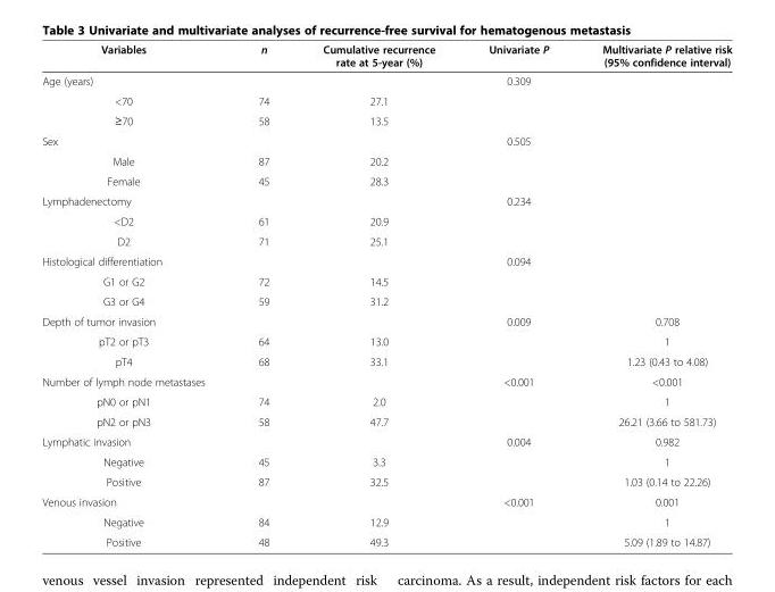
<table><thead><tr><td>Variables</td><td>n</td><td>Cumulative recurrence rate at 5-year (%)</td><td>Univariate P</td><td>Multivariate P relative risk (95% confidence interval)</td></tr></thead><tbody><tr><td>Age (years)</td><td></td><td></td><td>0.309</td><td></td></tr><tr><td>&lt;70</td><td>74</td><td>27.1</td><td></td><td></td></tr><tr><td>≥70</td><td>58</td><td>13.5</td><td></td><td></td></tr><tr><td>Sex</td><td></td><td></td><td>0.505</td><td></td></tr><tr><td>Male</td><td>87</td><td>20.2</td><td></td><td></td></tr><tr><td>Female</td><td>45</td><td>28.3</td><td></td><td></td></tr><tr><td>Lymphadenectomy</td><td></td><td></td><td>0.234</td><td></td></tr><tr><td>&lt;D2</td><td>61</td><td>20.9</td><td></td><td></td></tr><tr><td>D2</td><td>71</td><td>25.1</td><td></td><td></td></tr><tr><td>Histological differentiation</td><td></td><td></td><td>0.094</td><td></td></tr><tr><td>G1 or G2</td><td>72</td><td>14.5</td><td></td><td></td></tr><tr><td>G3 or G4</td><td>59</td><td>31.2</td><td></td><td></td></tr><tr><td>Depth of tumor invasion</td><td></td><td></td><td>0.009</td><td>0.708</td></tr><tr><td>pT2 or pT3</td><td>64</td><td>13.0</td><td></td><td>1</td></tr><tr><td>pT4</td><td>68</td><td>33.1</td><td></td><td>1.23 (0.43 to 4.08)</td></tr><tr><td>Number of lymph node metastases</td><td></td><td></td><td>&lt;0.001</td><td>&lt;0.001</td></tr><tr><td>pN0 or pN1</td><td>74</td><td>2.0</td><td></td><td>1</td></tr><tr><td>pN2 or pN3</td><td>58</td><td>47.7</td><td></td><td>26.21 (3.66 to 581.73)</td></tr><tr><td>Lymphatic invasion</td><td></td><td></td><td>0.004</td><td>0.982</td></tr><tr><td>Negative</td><td>45</td><td>3.3</td><td></td><td>1</td></tr><tr><td>Positive</td><td>87</td><td>32.5</td><td></td><td>1.03 (0.14 to 22.26)</td></tr><tr><td>Venous invasion</td><td></td><td></td><td>&lt;0.001</td><td>0.001</td></tr><tr><td>Negative</td><td>84</td><td>12.9</td><td></td><td>1</td></tr><tr><td>Positive</td><td>48</td><td>49.3</td><td></td><td>5.09 (1.89 to 14.87)</td></tr></tbody></table>